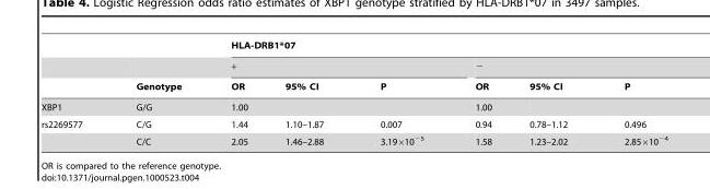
<table><thead><tr><td rowspan="3"></td><td rowspan="3">Genotype</td><td colspan="6">HLA-DRB1*07</td></tr><tr><td colspan="3">+</td><td colspan="3">−</td></tr><tr><td>OR</td><td>95% CI</td><td>P</td><td>OR</td><td>95% CI</td><td>P</td></tr></thead><tbody><tr><td>XBP1</td><td>G/G</td><td>1.00</td><td></td><td></td><td>1.00</td><td></td><td></td></tr><tr><td rowspan="2">rs2269577</td><td>C/G</td><td>1.44</td><td>1.10–1.87</td><td>0.007</td><td>0.94</td><td>0.78–1.12</td><td>0.496</td></tr><tr><td>C/C</td><td>2.05</td><td>1.46–2.88</td><td>3.19×10<sup>−5</sup></td><td>1.58</td><td>1.23–2.02</td><td>2.85×10<sup>−4</sup></td></tr></tbody></table>